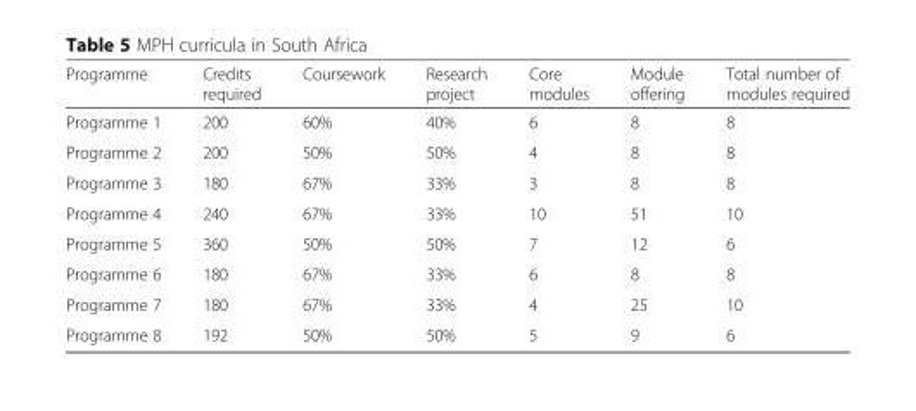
<table><thead><tr><td>Programme</td><td>Credits required</td><td>Coursework</td><td>Research project</td><td>Core modules</td><td>Module offering</td><td>Total number of modules required</td></tr></thead><tbody><tr><td>Programme 1</td><td>200</td><td>60%</td><td>40%</td><td>6</td><td>8</td><td>8</td></tr><tr><td>Programme 2</td><td>200</td><td>50%</td><td>50%</td><td>4</td><td>8</td><td>8</td></tr><tr><td>Programme 3</td><td>180</td><td>67%</td><td>33%</td><td>3</td><td>8</td><td>8</td></tr><tr><td>Programme 4</td><td>240</td><td>67%</td><td>33%</td><td>10</td><td>51</td><td>10</td></tr><tr><td>Programme 5</td><td>360</td><td>50%</td><td>50%</td><td>7</td><td>12</td><td>6</td></tr><tr><td>Programme 6</td><td>180</td><td>67%</td><td>33%</td><td>6</td><td>8</td><td>8</td></tr><tr><td>Programme 7</td><td>180</td><td>67%</td><td>33%</td><td>4</td><td>25</td><td>10</td></tr><tr><td>Programme 8</td><td>192</td><td>50%</td><td>50%</td><td>5</td><td>9</td><td>6</td></tr></tbody></table>